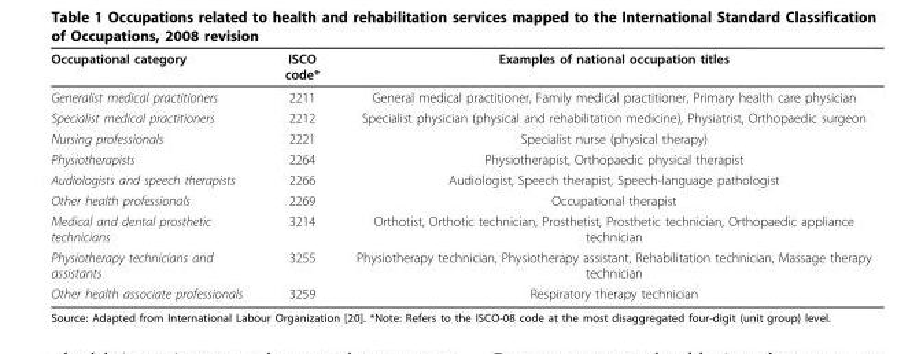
<table><thead><tr><td>Occupational category</td><td>ISCO code*</td><td>Examples of national occupation titles</td></tr></thead><tbody><tr><td>Generalist medical practitioners</td><td>2211</td><td>General medical practitioner, Family medical practitioner, Primary health care physician</td></tr><tr><td>Specialist medical practitioners</td><td>2212</td><td>Specialist physician (physical and rehabilitation medicine), Physiatrist, Orthopaedic surgeon</td></tr><tr><td>Nursing professionals</td><td>2221</td><td>Specialist nurse (physical therapy)</td></tr><tr><td>Physiotherapists</td><td>2264</td><td>Physiotherapist, Orthopaedic physical therapist</td></tr><tr><td>Audiologists and speech therapists</td><td>2266</td><td>Audiologist, Speech therapist, Speech-language pathologist</td></tr><tr><td>Other health professionals</td><td>2269</td><td>Occupational therapist</td></tr><tr><td>Medical and dental prosthetic technicians</td><td>3214</td><td>Orthotist, Orthotic technician, Prosthetist, Prosthetic technician, Orthopaedic appliance technician</td></tr><tr><td>Physiotherapy technicians and assistants</td><td>3255</td><td>Physiotherapy technician, Physiotherapy assistant, Rehabilitation technician, Massage therapy technician</td></tr><tr><td>Other health associate professionals</td><td>3259</td><td>Respiratory therapy technician</td></tr></tbody></table>